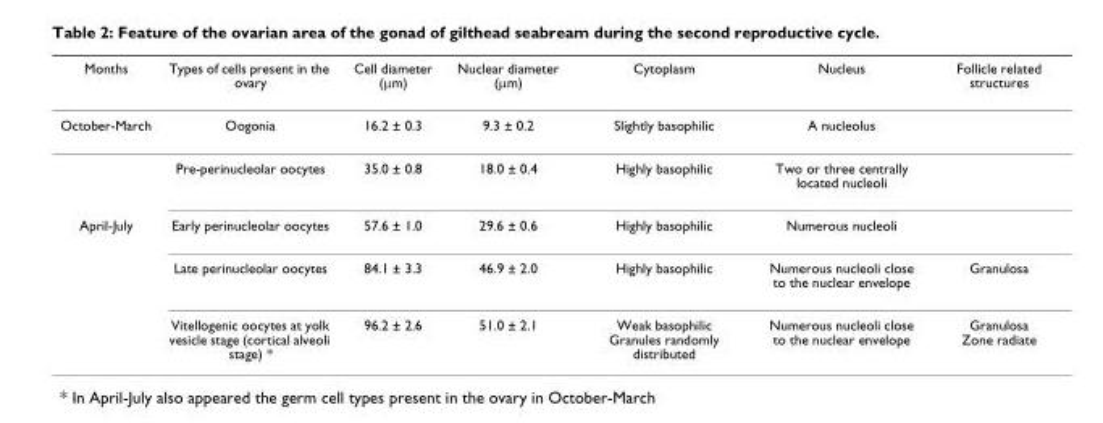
<table><thead><tr><td>Months</td><td>Types of cells present in the ovary</td><td>Cell diameter (μm)</td><td>Nuclear diameter (μm)</td><td>Cytoplasm</td><td>Nucleus</td><td>Follicle related structures</td></tr></thead><tbody><tr><td rowspan="2">October-March</td><td>Oogonia</td><td>16.2 ± 0.3</td><td>9.3 ± 0.2</td><td>Slightly basophilic</td><td>A nucleolus</td><td></td></tr><tr><td>Pre-perinucleolar oocytes</td><td>35.0 ± 0.8</td><td>18.0 ± 0.4</td><td>Highly basophilic</td><td>Two or three centrally located nucleoli</td><td></td></tr><tr><td rowspan="3">April-July</td><td>Early perinucleolar oocytes</td><td>57.6 ± 1.0</td><td>29.6 ± 0.6</td><td>Highly basophilic</td><td>Numerous nucleoli</td><td></td></tr><tr><td>Late perinucleolar oocytes</td><td>84.1 ± 3.3</td><td>46.9 ± 2.0</td><td>Highly basophilic</td><td>Numerous nucleoli close to the nuclear envelope</td><td>Granulosa</td></tr><tr><td>Vitellogenic oocytes at yolk vesicle stage (cortical alveoli stage) *</td><td>96.2 ± 2.6</td><td>51.0 ± 2.1</td><td>Weak basophilic Granules randomly distributed</td><td>Numerous nucleoli close to the nuclear envelope</td><td>Granulosa Zone radiate</td></tr></tbody></table>